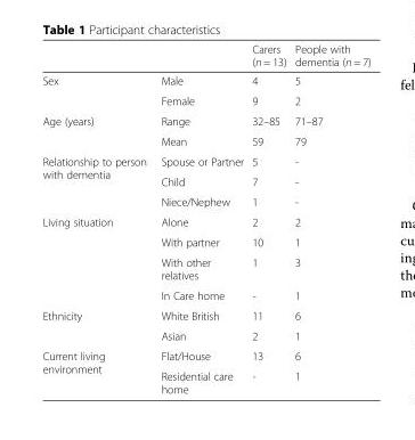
<table><thead><tr><td></td><td></td><td>Carers (n = 13)</td><td>People with dementia (n = 7)</td></tr></thead><tbody><tr><td rowspan="2">Sex</td><td>Male</td><td>4</td><td>5</td></tr><tr><td>Female</td><td>9</td><td>2</td></tr><tr><td rowspan="2">Age (years)</td><td>Range</td><td>32–85</td><td>71–87</td></tr><tr><td>Mean</td><td>59</td><td>79</td></tr><tr><td rowspan="3">Relationship to person with dementia</td><td>Spouse or Partner</td><td>5</td><td>-</td></tr><tr><td>Child</td><td>7</td><td>-</td></tr><tr><td>Niece/Nephew</td><td>1</td><td>-</td></tr><tr><td rowspan="4">Living situation</td><td>Alone</td><td>2</td><td>2</td></tr><tr><td>With partner</td><td>10</td><td>1</td></tr><tr><td>With other relatives</td><td>1</td><td>3</td></tr><tr><td>In Care home</td><td>-</td><td>1</td></tr><tr><td rowspan="2">Ethnicity</td><td>White British</td><td>11</td><td>6</td></tr><tr><td>Asian</td><td>2</td><td>1</td></tr><tr><td rowspan="2">Current living environment</td><td>Flat/House</td><td>13</td><td>6</td></tr><tr><td>Residential care home</td><td>-</td><td>1</td></tr></tbody></table>